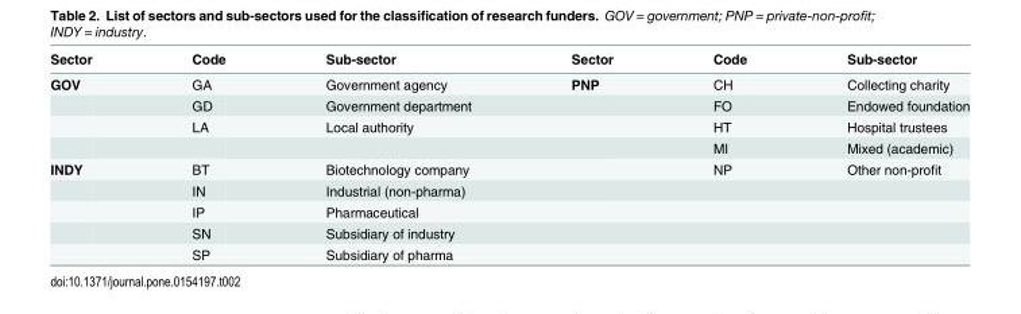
<table><thead><tr><td>Sector</td><td>Code</td><td>Sub-sector</td><td>Sector</td><td>Code</td><td>Sub-sector</td></tr></thead><tbody><tr><td rowspan="4">GOV</td><td>GA</td><td>Government agency</td><td>PNP</td><td>CH</td><td>Collecting charity</td></tr><tr><td>GD</td><td>Government department</td><td></td><td>FO</td><td>Endowed foundation</td></tr><tr><td>LA</td><td>Local authority</td><td></td><td>HT</td><td>Hospital trustees</td></tr><tr><td></td><td></td><td></td><td>MI</td><td>Mixed (academic)</td></tr><tr><td rowspan="5">INDY</td><td>BT</td><td>Biotechnology company</td><td></td><td>NP</td><td>Other non-profit</td></tr><tr><td>IN</td><td>Industrial (non-pharma)</td><td></td><td></td><td></td></tr><tr><td>IP</td><td>Pharmaceutical</td><td></td><td></td><td></td></tr><tr><td>SN</td><td>Subsidiary of industry</td><td></td><td></td><td></td></tr><tr><td>SP</td><td>Subsidiary of pharma</td><td></td><td></td><td></td></tr></tbody></table>